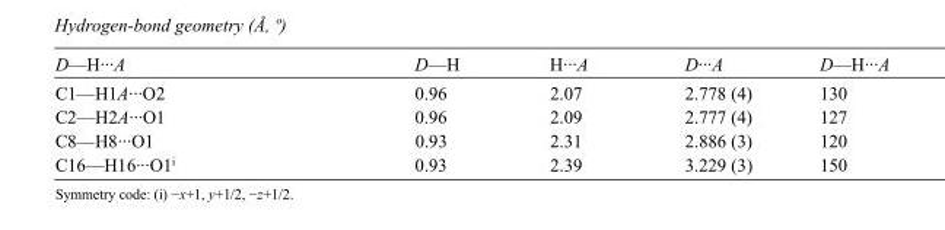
<table><tbody><tr><td>D—H···A</td><td>D—H</td><td>H···A</td><td>D···A</td><td>D—H···A</td></tr><tr><td>C1—H1A···O2</td><td>0.96</td><td>2.07</td><td>2.778 (4)</td><td>130</td></tr><tr><td>C2—H2A···O1</td><td>0.96</td><td>2.09</td><td>2.777 (4)</td><td>127</td></tr><tr><td>C8—H8···O1</td><td>0.93</td><td>2.31</td><td>2.886 (3)</td><td>120</td></tr><tr><td>C16—H16···O1<sup>i</sup></td><td>0.93</td><td>2.39</td><td>3.229 (3)</td><td>150</td></tr></tbody></table>